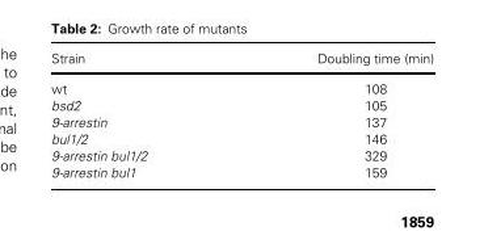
<table><thead><tr><td>Strain</td><td>Doubling time (min)</td></tr></thead><tbody><tr><td>wt</td><td>108</td></tr><tr><td>bsd2</td><td>105</td></tr><tr><td>9-arrestin</td><td>137</td></tr><tr><td>bul1/2</td><td>146</td></tr><tr><td>9-arrestin bul1/2</td><td>329</td></tr><tr><td>9-arrestin bul1</td><td>159</td></tr></tbody></table>